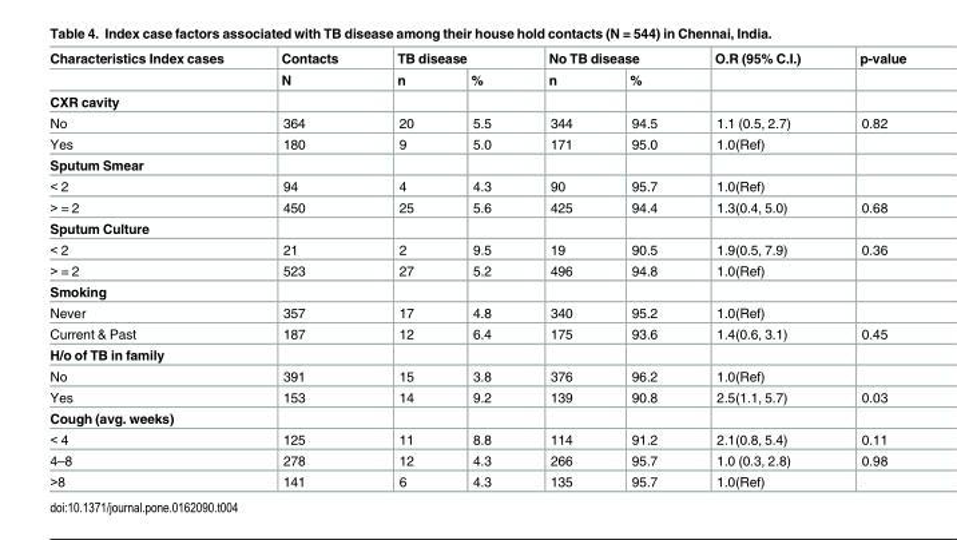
<table><thead><tr><td rowspan="2">Characteristics Index cases</td><td rowspan="2">Contacts N</td><td colspan="2">TB disease</td><td colspan="2">No TB disease</td><td rowspan="2">O.R (95% C.I.)</td><td rowspan="2">p-value</td></tr><tr><td>n</td><td>%</td><td>n</td><td>%</td></tr></thead><tbody><tr><td colspan="8">CXR cavity</td></tr><tr><td>No</td><td>364</td><td>20</td><td>5.5</td><td>344</td><td>94.5</td><td>1.1 (0.5, 2.7)</td><td>0.82</td></tr><tr><td>Yes</td><td>180</td><td>9</td><td>5.0</td><td>171</td><td>95.0</td><td>1.0(Ref)</td><td></td></tr><tr><td colspan="8">Sputum Smear</td></tr><tr><td>&lt; 2</td><td>94</td><td>4</td><td>4.3</td><td>90</td><td>95.7</td><td>1.0(Ref)</td><td></td></tr><tr><td>&gt; = 2</td><td>450</td><td>25</td><td>5.6</td><td>425</td><td>94.4</td><td>1.3(0.4, 5.0)</td><td>0.68</td></tr><tr><td colspan="8">Sputum Culture</td></tr><tr><td>&lt; 2</td><td>21</td><td>2</td><td>9.5</td><td>19</td><td>90.5</td><td>1.9(0.5, 7.9)</td><td>0.36</td></tr><tr><td>&gt; = 2</td><td>523</td><td>27</td><td>5.2</td><td>496</td><td>94.8</td><td>1.0(Ref)</td><td></td></tr><tr><td colspan="8">Smoking</td></tr><tr><td>Never</td><td>357</td><td>17</td><td>4.8</td><td>340</td><td>95.2</td><td>1.0(Ref)</td><td></td></tr><tr><td>Current &amp; Past</td><td>187</td><td>12</td><td>6.4</td><td>175</td><td>93.6</td><td>1.4(0.6, 3.1)</td><td>0.45</td></tr><tr><td colspan="8">H/o of TB in family</td></tr><tr><td>No</td><td>391</td><td>15</td><td>3.8</td><td>376</td><td>96.2</td><td>1.0(Ref)</td><td></td></tr><tr><td>Yes</td><td>153</td><td>14</td><td>9.2</td><td>139</td><td>90.8</td><td>2.5(1.1, 5.7)</td><td>0.03</td></tr><tr><td colspan="8">Cough (avg. weeks)</td></tr><tr><td>&lt; 4</td><td>125</td><td>11</td><td>8.8</td><td>114</td><td>91.2</td><td>2.1(0.8, 5.4)</td><td>0.11</td></tr><tr><td>4–8</td><td>278</td><td>12</td><td>4.3</td><td>266</td><td>95.7</td><td>1.0 (0.3, 2.8)</td><td>0.98</td></tr><tr><td>&gt;8</td><td>141</td><td>6</td><td>4.3</td><td>135</td><td>95.7</td><td>1.0(Ref)</td><td></td></tr></tbody></table>